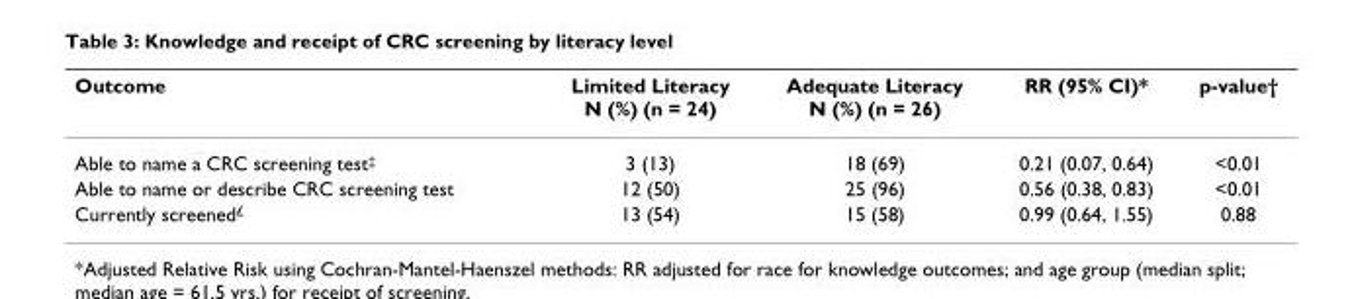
<table><thead><tr><td>Outcome</td><td>Limited Literacy N (%) (n = 24)</td><td>Adequate Literacy N (%) (n = 26)</td><td>RR (95% CI)*</td><td>p-value†</td></tr></thead><tbody><tr><td>Able to name a CRC screening test<sup>‡</sup></td><td>3 (13)</td><td>18 (69)</td><td>0.21 (0.07, 0.64)</td><td>&lt;0.01</td></tr><tr><td>Able to name or describe CRC screening test</td><td>12 (50)</td><td>25 (96)</td><td>0.56 (0.38, 0.83)</td><td>&lt;0.01</td></tr><tr><td>Currently screened<sup>£</sup></td><td>13 (54)</td><td>15 (58)</td><td>0.99 (0.64, 1.55)</td><td>0.88</td></tr></tbody></table>